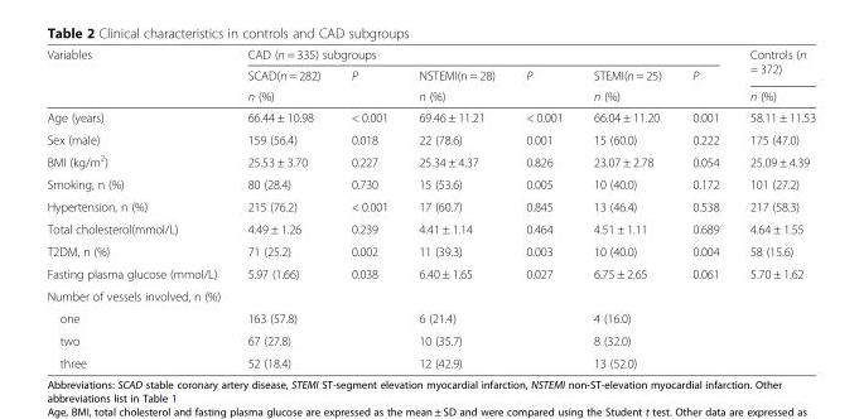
<table><thead><tr><td rowspan="3">Variables</td><td colspan="6">CAD (n = 335) subgroups</td><td rowspan="3">Controls (n = 372) n (%)</td></tr><tr><td rowspan="2">SCAD(n = 282) n (%)</td><td rowspan="2">P</td><td rowspan="2">NSTEMI(n = 28) n (%)</td><td rowspan="2">P</td><td rowspan="2">STEMI(n = 25) n (%)</td><td rowspan="2">P</td></tr><tr></tr></thead><tbody><tr><td>Age (years)</td><td>66.44 ± 10.98</td><td>&lt; 0.001</td><td>69.46 ± 11.21</td><td>&lt; 0.001</td><td>66.04 ± 11.20</td><td>0.001</td><td>58.11 ± 11.53</td></tr><tr><td>Sex (male)</td><td>159 (56.4)</td><td>0.018</td><td>22 (78.6)</td><td>0.001</td><td>15 (60.0)</td><td>0.222</td><td>175 (47.0)</td></tr><tr><td>BMI (kg/m<sup>2</sup>)</td><td>25.53 ± 3.70</td><td>0.227</td><td>25.34 ± 4.37</td><td>0.826</td><td>23.07 ± 2.78</td><td>0.054</td><td>25.09 ± 4.39</td></tr><tr><td>Smoking, n (%)</td><td>80 (28.4)</td><td>0.730</td><td>15 (53.6)</td><td>0.005</td><td>10 (40.0)</td><td>0.172</td><td>101 (27.2)</td></tr><tr><td>Hypertension, n (%)</td><td>215 (76.2)</td><td>&lt; 0.001</td><td>17 (60.7)</td><td>0.845</td><td>13 (46.4)</td><td>0.538</td><td>217 (58.3)</td></tr><tr><td>Total cholesterol(mmol/L)</td><td>4.49 ± 1.26</td><td>0.239</td><td>4.41 ± 1.14</td><td>0.464</td><td>4.51 ± 1.11</td><td>0.689</td><td>4.64 ± 1.55</td></tr><tr><td>T2DM, n (%)</td><td>71 (25.2)</td><td>0.002</td><td>11 (39.3)</td><td>0.003</td><td>10 (40.0)</td><td>0.004</td><td>58 (15.6)</td></tr><tr><td>Fasting plasma glucose (mmol/L)</td><td>5.97 (1.66)</td><td>0.038</td><td>6.40 ± 1.65</td><td>0.027</td><td>6.75 ± 2.65</td><td>0.061</td><td>5.70 ± 1.62</td></tr><tr><td colspan="8">Number of vessels involved, n (%)</td></tr><tr><td>one</td><td>163 (57.8)</td><td></td><td>6 (21.4)</td><td></td><td>4 (16.0)</td><td></td><td></td></tr><tr><td>two</td><td>67 (27.8)</td><td></td><td>10 (35.7)</td><td></td><td>8 (32.0)</td><td></td><td></td></tr><tr><td>three</td><td>52 (18.4)</td><td></td><td>12 (42.9)</td><td></td><td>13 (52.0)</td><td></td><td></td></tr></tbody></table>